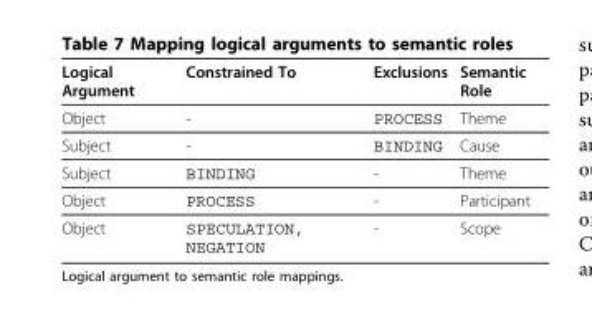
<table><thead><tr><td>Logical Argument</td><td>Constrained To</td><td>Exclusions</td><td>Semantic Role</td></tr></thead><tbody><tr><td>Object</td><td>-</td><td>PROCESS</td><td>Theme</td></tr><tr><td>Subject</td><td>-</td><td>BINDING</td><td>Cause</td></tr><tr><td>Subject</td><td>BINDING</td><td>-</td><td>Theme</td></tr><tr><td>Object</td><td>PROCESS</td><td>-</td><td>Participant</td></tr><tr><td>Object</td><td>SPECULATION, NEGATION</td><td>-</td><td>Scope</td></tr></tbody></table>